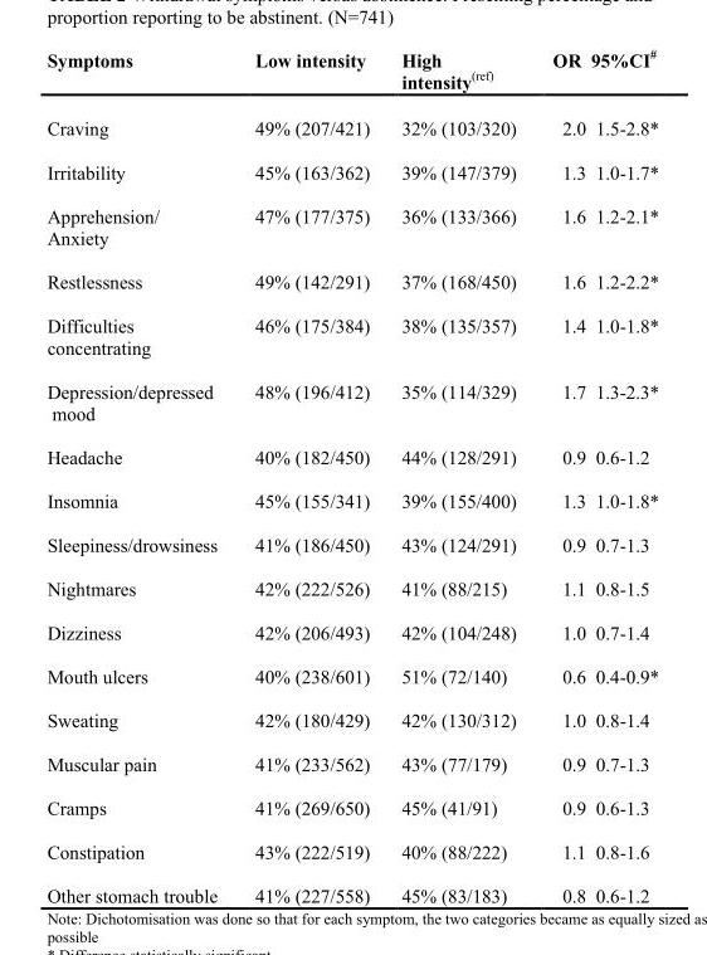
<table><thead><tr><td>Symptoms</td><td>Low intensity</td><td>High intensity<sup>(ref)</sup></td><td>OR 95%CI<sup>#</sup></td></tr></thead><tbody><tr><td>Craving</td><td>49% (207/421)</td><td>32% (103/320)</td><td>2.0 1.5-2.8*</td></tr><tr><td>Irritability</td><td>45% (163/362)</td><td>39% (147/379)</td><td>1.3 1.0-1.7*</td></tr><tr><td>Apprehension/ Anxiety</td><td>47% (177/375)</td><td>36% (133/366)</td><td>1.6 1.2-2.1*</td></tr><tr><td>Restlessness</td><td>49% (142/291)</td><td>37% (168/450)</td><td>1.6 1.2-2.2*</td></tr><tr><td>Difficulties concentrating</td><td>46% (175/384)</td><td>38% (135/357)</td><td>1.4 1.0-1.8*</td></tr><tr><td>Depression/depressed mood</td><td>48% (196/412)</td><td>35% (114/329)</td><td>1.7 1.3-2.3*</td></tr><tr><td>Headache</td><td>40% (182/450)</td><td>44% (128/291)</td><td>0.9 0.6-1.2</td></tr><tr><td>Insomnia</td><td>45% (155/341)</td><td>39% (155/400)</td><td>1.3 1.0-1.8*</td></tr><tr><td>Sleepiness/drowsiness</td><td>41% (186/450)</td><td>43% (124/291)</td><td>0.9 0.7-1.3</td></tr><tr><td>Nightmares</td><td>42% (222/526)</td><td>41% (88/215)</td><td>1.1 0.8-1.5</td></tr><tr><td>Dizziness</td><td>42% (206/493)</td><td>42% (104/248)</td><td>1.0 0.7-1.4</td></tr><tr><td>Mouth ulcers</td><td>40% (238/601)</td><td>51% (72/140)</td><td>0.6 0.4-0.9*</td></tr><tr><td>Sweating</td><td>42% (180/429)</td><td>42% (130/312)</td><td>1.0 0.8-1.4</td></tr><tr><td>Muscular pain</td><td>41% (233/562)</td><td>43% (77/179)</td><td>0.9 0.7-1.3</td></tr><tr><td>Cramps</td><td>41% (269/650)</td><td>45% (41/91)</td><td>0.9 0.6-1.3</td></tr><tr><td>Constipation</td><td>43% (222/519)</td><td>40% (88/222)</td><td>1.1 0.8-1.6</td></tr><tr><td>Other stomach trouble</td><td>41% (227/558)</td><td>45% (83/183)</td><td>0.8 0.6-1.2</td></tr></tbody></table>